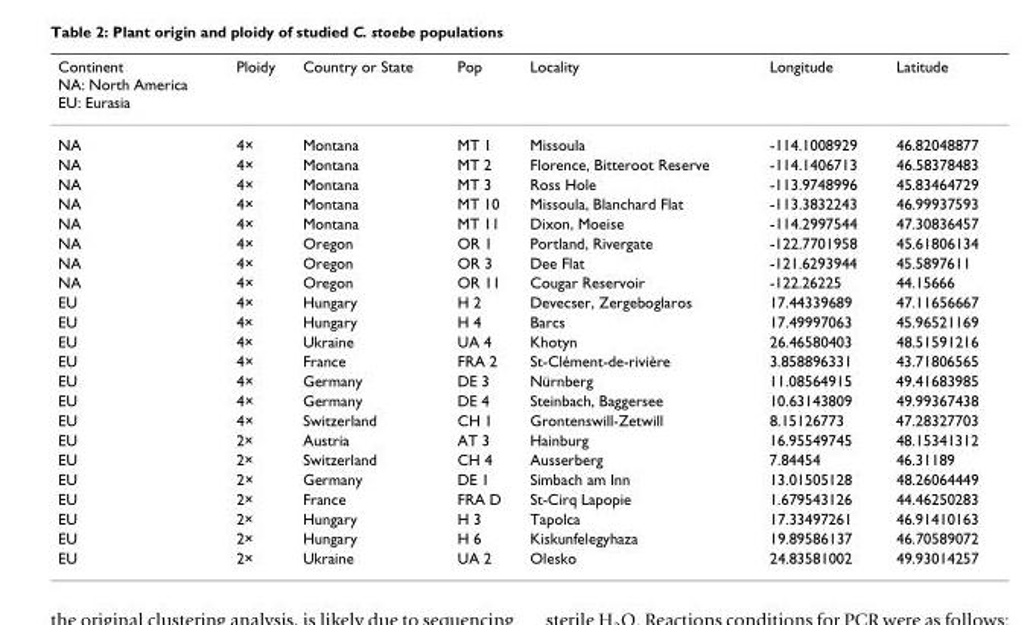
<table><thead><tr><td>Continent NA: North America EU: Eurasia</td><td>Ploidy</td><td>Country or State</td><td>Pop</td><td>Locality</td><td>Longitude</td><td>Latitude</td></tr></thead><tbody><tr><td>NA</td><td>4×</td><td>Montana</td><td>MT 1</td><td>Missoula</td><td>-114.1008929</td><td>46.82048877</td></tr><tr><td>NA</td><td>4×</td><td>Montana</td><td>MT 2</td><td>Florence, Bitteroot Reserve</td><td>-114.1406713</td><td>46.58378483</td></tr><tr><td>NA</td><td>4×</td><td>Montana</td><td>MT 3</td><td>Ross Hole</td><td>-113.9748996</td><td>45.83464729</td></tr><tr><td>NA</td><td>4×</td><td>Montana</td><td>MT 10</td><td>Missoula, Blanchard Flat</td><td>-113.3832243</td><td>46.99937593</td></tr><tr><td>NA</td><td>4×</td><td>Montana</td><td>MT 11</td><td>Dixon, Moeise</td><td>-114.2997544</td><td>47.30836457</td></tr><tr><td>NA</td><td>4×</td><td>Oregon</td><td>OR 1</td><td>Portland, Rivergate</td><td>-122.7701958</td><td>45.61806134</td></tr><tr><td>NA</td><td>4×</td><td>Oregon</td><td>OR 3</td><td>Dee Flat</td><td>-121.6293944</td><td>45.5897611</td></tr><tr><td>NA</td><td>4×</td><td>Oregon</td><td>OR 11</td><td>Cougar Reservoir</td><td>-122.26225</td><td>44.15666</td></tr><tr><td>EU</td><td>4×</td><td>Hungary</td><td>H 2</td><td>Devecser, Zergeboglaros</td><td>17.44339689</td><td>47.11656667</td></tr><tr><td>EU</td><td>4×</td><td>Hungary</td><td>H 4</td><td>Barcs</td><td>17.49997063</td><td>45.96521169</td></tr><tr><td>EU</td><td>4×</td><td>Ukraine</td><td>UA 4</td><td>Khotyn</td><td>26.46580403</td><td>48.51591216</td></tr><tr><td>EU</td><td>4×</td><td>France</td><td>FRA 2</td><td>St-Clément-de-rivière</td><td>3.858896331</td><td>43.71806565</td></tr><tr><td>EU</td><td>4×</td><td>Germany</td><td>DE 3</td><td>Nürnberg</td><td>11.08564915</td><td>49.41683985</td></tr><tr><td>EU</td><td>4×</td><td>Germany</td><td>DE 4</td><td>Steinbach, Baggersee</td><td>10.63143809</td><td>49.99367438</td></tr><tr><td>EU</td><td>4×</td><td>Switzerland</td><td>CH 1</td><td>Grontenswill-Zetwill</td><td>8.15126773</td><td>47.28327703</td></tr><tr><td>EU</td><td>2×</td><td>Austria</td><td>AT 3</td><td>Hainburg</td><td>16.95549745</td><td>48.15341312</td></tr><tr><td>EU</td><td>2×</td><td>Switzerland</td><td>CH 4</td><td>Ausserberg</td><td>7.84454</td><td>46.31189</td></tr><tr><td>EU</td><td>2×</td><td>Germany</td><td>DE 1</td><td>Simbach am Inn</td><td>13.01505128</td><td>48.26064449</td></tr><tr><td>EU</td><td>2×</td><td>France</td><td>FRA D</td><td>St-Cirq Lapopie</td><td>1.679543126</td><td>44.46250283</td></tr><tr><td>EU</td><td>2×</td><td>Hungary</td><td>H 3</td><td>Tapolca</td><td>17.33497261</td><td>46.91410163</td></tr><tr><td>EU</td><td>2×</td><td>Hungary</td><td>H 6</td><td>Kiskunfelegyhaza</td><td>19.89586137</td><td>46.70589072</td></tr><tr><td>EU</td><td>2×</td><td>Ukraine</td><td>UA 2</td><td>Olesko</td><td>24.83581002</td><td>49.93014257</td></tr></tbody></table>